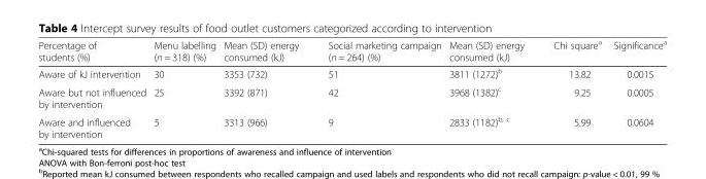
<table><thead><tr><td>Percentage of students (%)</td><td>Menu labelling (n = 318) (%)</td><td>Mean (SD) energy consumed (kJ)</td><td>Social marketing campaign (n = 264) (%)</td><td>Mean (SD) energy consumed (kJ)</td><td>Chi square<sup>a</sup></td><td>Significance<sup>a</sup></td></tr></thead><tbody><tr><td>Aware of kJ intervention</td><td>30</td><td>3353 (732)</td><td>51</td><td>3811 (1272)<sup>b</sup></td><td>13.82</td><td>0.0015</td></tr><tr><td>Aware but not influenced by intervention</td><td>25</td><td>3392 (871)</td><td>42</td><td>3968 (1382)<sup>c</sup></td><td>9.25</td><td>0.0005</td></tr><tr><td>Aware and influenced by intervention</td><td>5</td><td>3313 (966)</td><td>9</td><td>2833 (1182)<sup>b, c</sup></td><td>5.99</td><td>0.0604</td></tr></tbody></table>